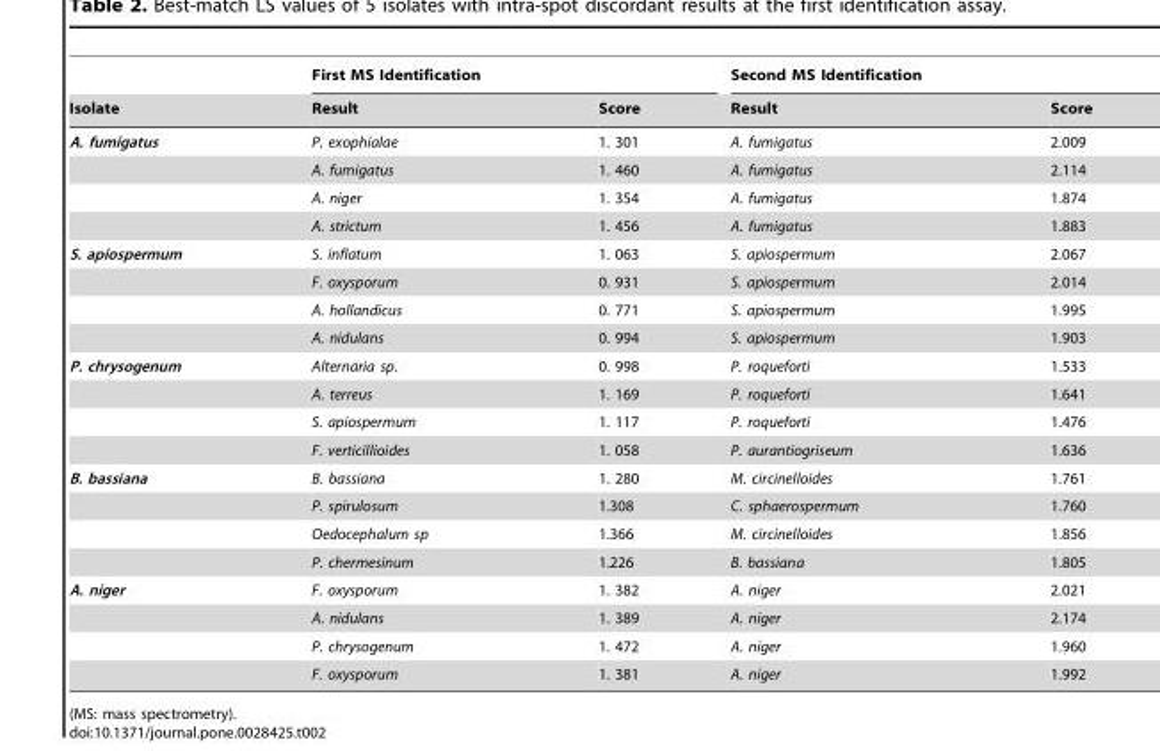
<table><thead><tr><td rowspan="2">Isolate</td><td colspan="2">First MS Identification</td><td colspan="2">Second MS Identification</td></tr><tr><td>Result</td><td>Score</td><td>Result</td><td>Score</td></tr></thead><tbody><tr><td rowspan="4">A. fumigatus</td><td>P. exophialae</td><td>1. 301</td><td>A. fumigatus</td><td>2.009</td></tr><tr><td>A. fumigatus</td><td>1. 460</td><td>A. fumigatus</td><td>2.114</td></tr><tr><td>A. niger</td><td>1. 354</td><td>A. fumigatus</td><td>1.874</td></tr><tr><td>A. strictum</td><td>1. 456</td><td>A. fumigatus</td><td>1.883</td></tr><tr><td rowspan="4">S. apiospermum</td><td>S. inflatum</td><td>1. 063</td><td>S. apiospermum</td><td>2.067</td></tr><tr><td>F. oxysporum</td><td>0. 931</td><td>S. apiospermum</td><td>2.014</td></tr><tr><td>A. hollandicus</td><td>0. 771</td><td>S. apiospermum</td><td>1.995</td></tr><tr><td>A. nidulans</td><td>0. 994</td><td>S. apiospermum</td><td>1.903</td></tr><tr><td rowspan="4">P. chrysogenum</td><td>Alternaria sp.</td><td>0. 998</td><td>P. roqueforti</td><td>1.533</td></tr><tr><td>A. terreus</td><td>1. 169</td><td>P. roqueforti</td><td>1.641</td></tr><tr><td>S. apiospermum</td><td>1. 117</td><td>P. roqueforti</td><td>1.476</td></tr><tr><td>F. verticillioides</td><td>1. 058</td><td>P. aurantiogriseum</td><td>1.636</td></tr><tr><td rowspan="4">B. bassiana</td><td>B. bassiana</td><td>1. 280</td><td>M. circinelloides</td><td>1.761</td></tr><tr><td>P. spirulosum</td><td>1.308</td><td>C. sphaerospermum</td><td>1.760</td></tr><tr><td>Oedocephalum sp</td><td>1.366</td><td>M. circinelloides</td><td>1.856</td></tr><tr><td>P. chermesinum</td><td>1.226</td><td>B. bassiana</td><td>1.805</td></tr><tr><td rowspan="4">A. niger</td><td>F. oxysporum</td><td>1. 382</td><td>A. niger</td><td>2.021</td></tr><tr><td>A. nidulans</td><td>1. 389</td><td>A. niger</td><td>2.174</td></tr><tr><td>P. chrysogenum</td><td>1. 472</td><td>A. niger</td><td>1.960</td></tr><tr><td>F. oxysporum</td><td>1. 381</td><td>A. niger</td><td>1.992</td></tr></tbody></table>